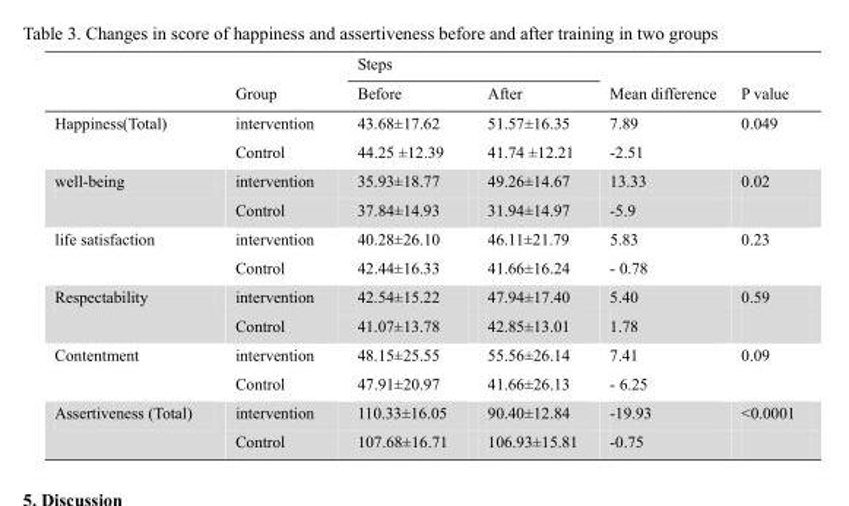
<table><thead><tr><td rowspan="2"></td><td rowspan="2">Group</td><td colspan="2">Steps</td><td rowspan="2">Mean difference</td><td rowspan="2">P value</td></tr><tr><td>Before</td><td>After</td></tr></thead><tbody><tr><td rowspan="2">Happiness(Total)</td><td>intervention</td><td>43.68±17.62</td><td>51.57±16.35</td><td>7.89</td><td rowspan="2">0.049</td></tr><tr><td>Control</td><td>44.25 ±12.39</td><td>41.74 ±12.21</td><td>-2.51</td></tr><tr><td rowspan="2">well-being</td><td>intervention</td><td>35.93±18.77</td><td>49.26±14.67</td><td>13.33</td><td rowspan="2">0.02</td></tr><tr><td>Control</td><td>37.84±14.93</td><td>31.94±14.97</td><td>-5.9</td></tr><tr><td rowspan="2">life satisfaction</td><td>intervention</td><td>40.28±26.10</td><td>46.11±21.79</td><td>5.83</td><td rowspan="2">0.23</td></tr><tr><td>Control</td><td>42.44±16.33</td><td>41.66±16.24</td><td>- 0.78</td></tr><tr><td rowspan="2">Respectability</td><td>intervention</td><td>42.54±15.22</td><td>47.94±17.40</td><td>5.40</td><td rowspan="2">0.59</td></tr><tr><td>Control</td><td>41.07±13.78</td><td>42.85±13.01</td><td>1.78</td></tr><tr><td rowspan="2">Contentment</td><td>intervention</td><td>48.15±25.55</td><td>55.56±26.14</td><td>7.41</td><td rowspan="2">0.09</td></tr><tr><td>Control</td><td>47.91±20.97</td><td>41.66±26.13</td><td>- 6.25</td></tr><tr><td rowspan="2">Assertiveness (Total)</td><td>intervention</td><td>110.33±16.05</td><td>90.40±12.84</td><td>-19.93</td><td rowspan="2">&lt;0.0001</td></tr><tr><td>Control</td><td>107.68±16.71</td><td>106.93±15.81</td><td>-0.75</td></tr></tbody></table>